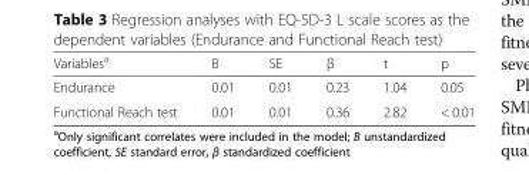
<table><thead><tr><td>Variables<sup>a</sup></td><td>B</td><td>SE</td><td>β</td><td>t</td><td>p</td></tr></thead><tbody><tr><td>Endurance</td><td>0.01</td><td>0.01</td><td>0.23</td><td>1.04</td><td>0.05</td></tr><tr><td>Functional Reach test</td><td>0.01</td><td>0.01</td><td>0.36</td><td>2.82</td><td>&lt; 0.01</td></tr></tbody></table>